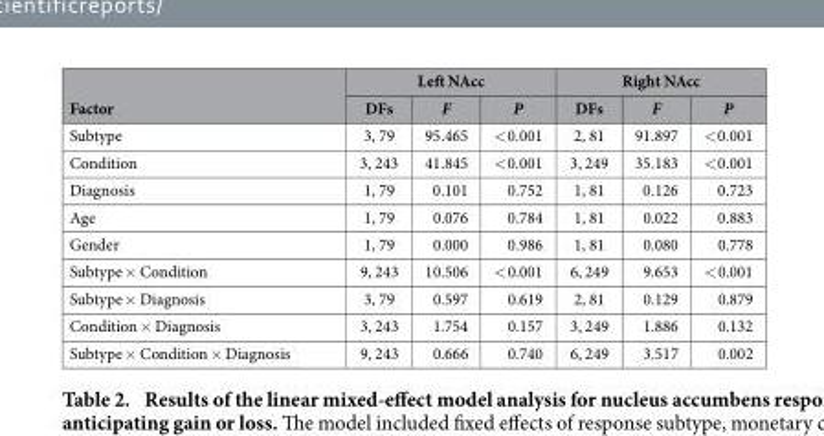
<table><thead><tr><td rowspan="2">Factor</td><td colspan="3">Left NAcc</td><td colspan="3">Right NAcc</td></tr><tr><td>DFs</td><td>F</td><td>P</td><td>DFs</td><td>F</td><td>P</td></tr></thead><tbody><tr><td>Subtype</td><td>3, 79</td><td>95.465</td><td>&lt; 0.001</td><td>2, 81</td><td>91.897</td><td>&lt; 0.001</td></tr><tr><td>Condition</td><td>3, 243</td><td>41.845</td><td>&lt; 0.001</td><td>3, 249</td><td>35.183</td><td>&lt; 0.001</td></tr><tr><td>Diagnosis</td><td>1, 79</td><td>0.101</td><td>0.752</td><td>1, 81</td><td>0.126</td><td>0.723</td></tr><tr><td>Age</td><td>1, 79</td><td>0.076</td><td>0.784</td><td>1, 81</td><td>0.022</td><td>0.883</td></tr><tr><td>Gender</td><td>1, 79</td><td>0.000</td><td>0.986</td><td>1, 81</td><td>0.080</td><td>0.778</td></tr><tr><td>Subtype × Condition</td><td>9, 243</td><td>10.506</td><td>&lt; 0.001</td><td>6, 249</td><td>9.653</td><td>&lt; 0.001</td></tr><tr><td>Subtype × Diagnosis</td><td>3, 79</td><td>0.597</td><td>0.619</td><td>2, 81</td><td>0.129</td><td>0.879</td></tr><tr><td>Condition × Diagnosis</td><td>3, 243</td><td>1.754</td><td>0.157</td><td>3, 249</td><td>1.886</td><td>0.132</td></tr><tr><td>Subtype × Condition × Diagnosis</td><td>9, 243</td><td>0.666</td><td>0.740</td><td>6, 249</td><td>3.517</td><td>0.002</td></tr></tbody></table>